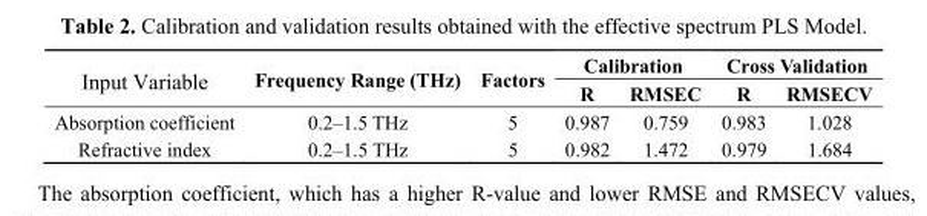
<table><thead><tr><td rowspan="2">Input Variable</td><td rowspan="2">Frequency Range (THz)</td><td rowspan="2">Factors</td><td colspan="2">Calibration</td><td colspan="2">Cross Validation</td></tr><tr><td>R</td><td>RMSEC</td><td>R</td><td>RMSECV</td></tr></thead><tbody><tr><td>Absorption coefficient</td><td>0.2–1.5 THz</td><td>5</td><td>0.987</td><td>0.759</td><td>0.983</td><td>1.028</td></tr><tr><td>Refractive index</td><td>0.2–1.5 THz</td><td>5</td><td>0.982</td><td>1.472</td><td>0.979</td><td>1.684</td></tr></tbody></table>